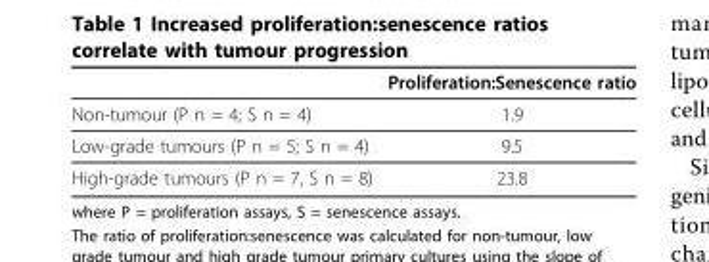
<table><thead><tr><td></td><td>Proliferation:Senescence ratio</td></tr></thead><tbody><tr><td>Non-tumour (P n = 4; S n = 4)</td><td>1.9</td></tr><tr><td>Low-grade tumours (P n = 5; S n = 4)</td><td>9.5</td></tr><tr><td>High-grade tumours (P n = 7, S n = 8)</td><td>23.8</td></tr></tbody></table>